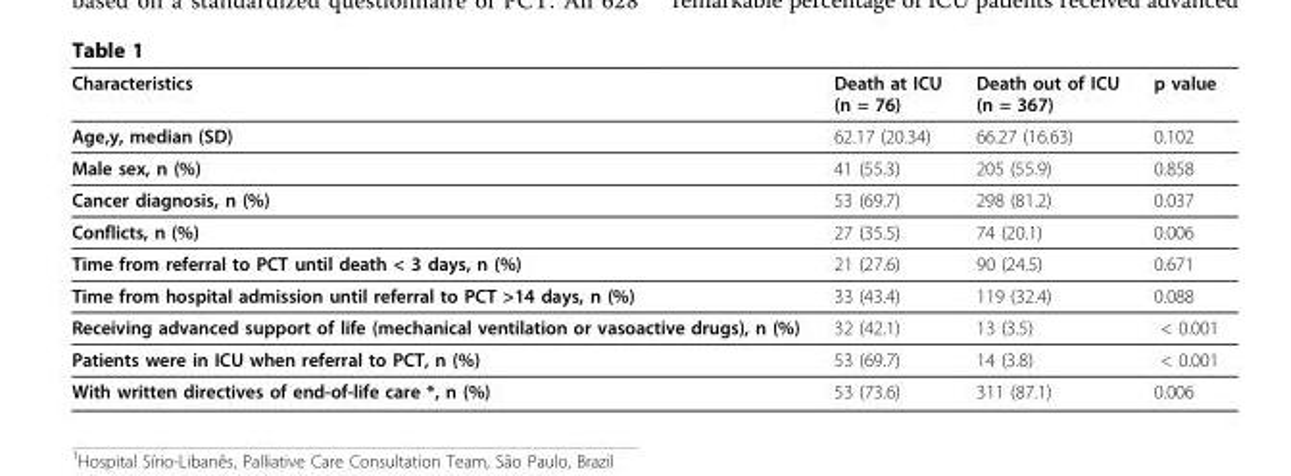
<table><thead><tr><td>Characteristics</td><td>Death at ICU (n = 76)</td><td>Death out of ICU (n = 367)</td><td>p value</td></tr></thead><tbody><tr><td>Age,y, median (SD)</td><td>62.17 (20.34)</td><td>66.27 (16.63)</td><td>0.102</td></tr><tr><td>Male sex, n (%)</td><td>41 (55.3)</td><td>205 (55.9)</td><td>0.858</td></tr><tr><td>Cancer diagnosis, n (%)</td><td>53 (69.7)</td><td>298 (81.2)</td><td>0.037</td></tr><tr><td>Conflicts, n (%)</td><td>27 (35.5)</td><td>74 (20.1)</td><td>0.006</td></tr><tr><td>Time from referral to PCT until death &lt; 3 days, n (%)</td><td>21 (27.6)</td><td>90 (24.5)</td><td>0.671</td></tr><tr><td>Time from hospital admission until referral to PCT &gt;14 days, n (%)</td><td>33 (43.4)</td><td>119 (32.4)</td><td>0.088</td></tr><tr><td>Receiving advanced support of life (mechanical ventilation or vasoactive drugs), n (%)</td><td>32 (42.1)</td><td>13 (3.5)</td><td>&lt; 0.001</td></tr><tr><td>Patients were in ICU when referral to PCT, n (%)</td><td>53 (69.7)</td><td>14 (3.8)</td><td>&lt; 0.001</td></tr><tr><td>With written directives of end-of-life care *, n (%)</td><td>53 (73.6)</td><td>311 (87.1)</td><td>0.006</td></tr></tbody></table>